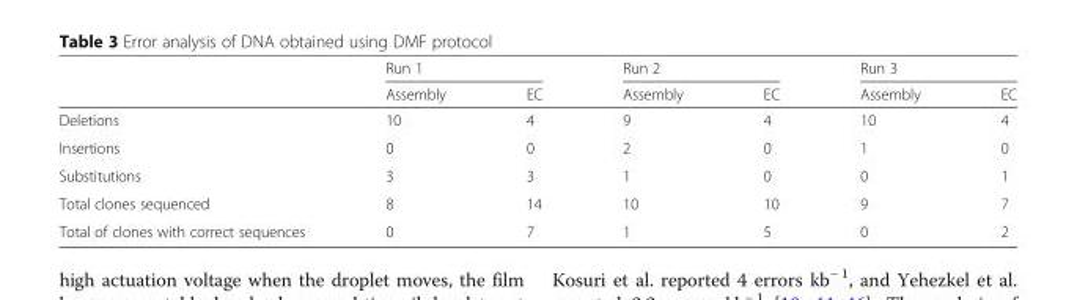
<table><thead><tr><td rowspan="2"></td><td colspan="2">Run 1</td><td colspan="2">Run 2</td><td colspan="2">Run 3</td></tr><tr><td>Assembly</td><td>EC</td><td>Assembly</td><td>EC</td><td>Assembly</td><td>EC</td></tr></thead><tbody><tr><td>Deletions</td><td>10</td><td>4</td><td>9</td><td>4</td><td>10</td><td>4</td></tr><tr><td>Insertions</td><td>0</td><td>0</td><td>2</td><td>0</td><td>1</td><td>0</td></tr><tr><td>Substitutions</td><td>3</td><td>3</td><td>1</td><td>0</td><td>0</td><td>1</td></tr><tr><td>Total clones sequenced</td><td>8</td><td>14</td><td>10</td><td>10</td><td>9</td><td>7</td></tr><tr><td>Total of clones with correct sequences</td><td>0</td><td>7</td><td>1</td><td>5</td><td>0</td><td>2</td></tr></tbody></table>